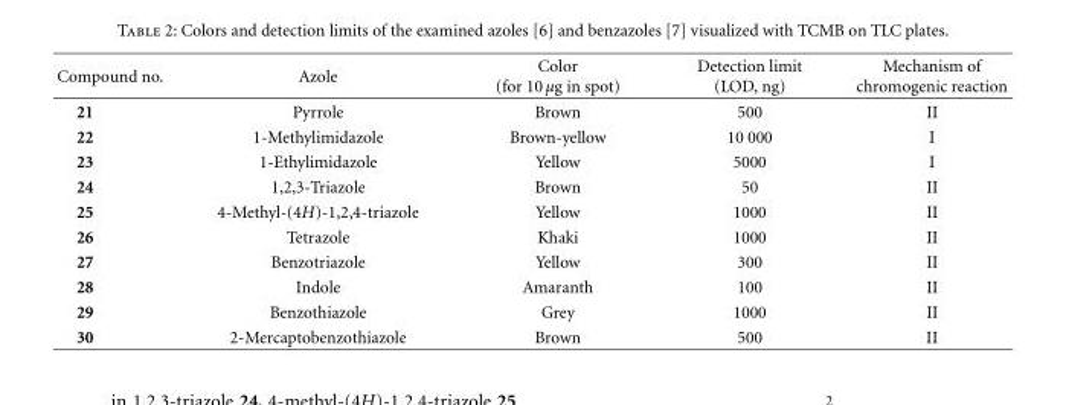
<table><thead><tr><td>Compound no.</td><td>Azole</td><td>Color (for 10 μg in spot)</td><td>Detection limit (LOD, ng)</td><td>Mechanism of chromogenic reaction</td></tr></thead><tbody><tr><td>21</td><td>Pyrrole</td><td>Brown</td><td>500</td><td>II</td></tr><tr><td>22</td><td>1-Methylimidazole</td><td>Brown-yellow</td><td>10 000</td><td>I</td></tr><tr><td>23</td><td>1-Ethylimidazole</td><td>Yellow</td><td>5000</td><td>I</td></tr><tr><td>24</td><td>1,2,3-Triazole</td><td>Brown</td><td>50</td><td>II</td></tr><tr><td>25</td><td>4-Methyl-(4H)-1,2,4-triazole</td><td>Yellow</td><td>1000</td><td>II</td></tr><tr><td>26</td><td>Tetrazole</td><td>Khaki</td><td>1000</td><td>II</td></tr><tr><td>27</td><td>Benzotriazole</td><td>Yellow</td><td>300</td><td>II</td></tr><tr><td>28</td><td>Indole</td><td>Amaranth</td><td>100</td><td>II</td></tr><tr><td>29</td><td>Benzothiazole</td><td>Grey</td><td>1000</td><td>II</td></tr><tr><td>30</td><td>2-Mercaptobenzothiazole</td><td>Brown</td><td>500</td><td>II</td></tr></tbody></table>